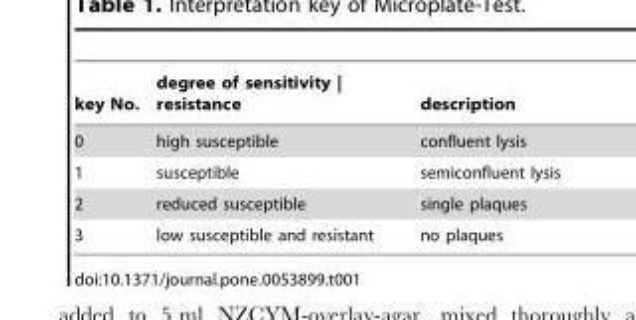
<table><thead><tr><td>key No.</td><td>degree of sensitivity | resistance</td><td>description</td></tr></thead><tbody><tr><td>0</td><td>high susceptible</td><td>confluent lysis</td></tr><tr><td>1</td><td>susceptible</td><td>semiconfluent lysis</td></tr><tr><td>2</td><td>reduced susceptible</td><td>single plaques</td></tr><tr><td>3</td><td>low susceptible and resistant</td><td>no plaques</td></tr></tbody></table>